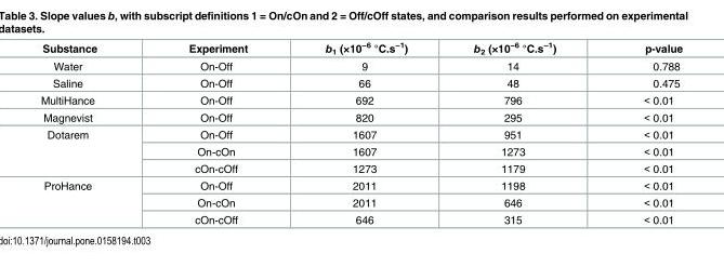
<table><thead><tr><td>Substance</td><td>Experiment</td><td>b<sub>1</sub> (×10<sup>−6</sup> °C.s<sup>−1</sup>)</td><td>b<sub>2</sub> (×10<sup>−6</sup> °C.s<sup>−1</sup>)</td><td>p-value</td></tr></thead><tbody><tr><td>Water</td><td>On-Off</td><td>9</td><td>14</td><td>0.788</td></tr><tr><td>Saline</td><td>On-Off</td><td>66</td><td>48</td><td>0.475</td></tr><tr><td>MultiHance</td><td>On-Off</td><td>692</td><td>796</td><td>&lt; 0.01</td></tr><tr><td>Magnevist</td><td>On-Off</td><td>820</td><td>295</td><td>&lt; 0.01</td></tr><tr><td rowspan="3">Dotarem</td><td>On-Off</td><td>1607</td><td>951</td><td>&lt; 0.01</td></tr><tr><td>On-cOn</td><td>1607</td><td>1273</td><td>&lt; 0.01</td></tr><tr><td>cOn-cOff</td><td>1273</td><td>1179</td><td>&lt; 0.01</td></tr><tr><td rowspan="3">ProHance</td><td>On-Off</td><td>2011</td><td>1198</td><td>&lt; 0.01</td></tr><tr><td>On-cOn</td><td>2011</td><td>646</td><td>&lt; 0.01</td></tr><tr><td>cOn-cOff</td><td>646</td><td>315</td><td>&lt; 0.01</td></tr></tbody></table>